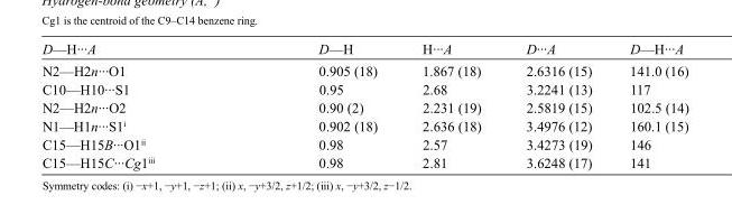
<table><tbody><tr><td>D—H···A</td><td>D—H</td><td>H···A</td><td>D···A</td><td>D—H···A</td></tr><tr><td>N2—H2n···O1</td><td>0.905 (18)</td><td>1.867 (18)</td><td>2.6316 (15)</td><td>141.0 (16)</td></tr><tr><td>C10—H10···S1</td><td>0.95</td><td>2.68</td><td>3.2241 (13)</td><td>117</td></tr><tr><td>N2—H2n···O2</td><td>0.90 (2)</td><td>2.231 (19)</td><td>2.5819 (15)</td><td>102.5 (14)</td></tr><tr><td>N1—H1n···S1<sup>i</sup></td><td>0.902 (18)</td><td>2.636 (18)</td><td>3.4976 (12)</td><td>160.1 (15)</td></tr><tr><td>C15—H15B···O1<sup>ii</sup></td><td>0.98</td><td>2.57</td><td>3.4273 (19)</td><td>146</td></tr><tr><td>C15—H15C···Cg1<sup>iii</sup></td><td>0.98</td><td>2.81</td><td>3.6248 (17)</td><td>141</td></tr></tbody></table>